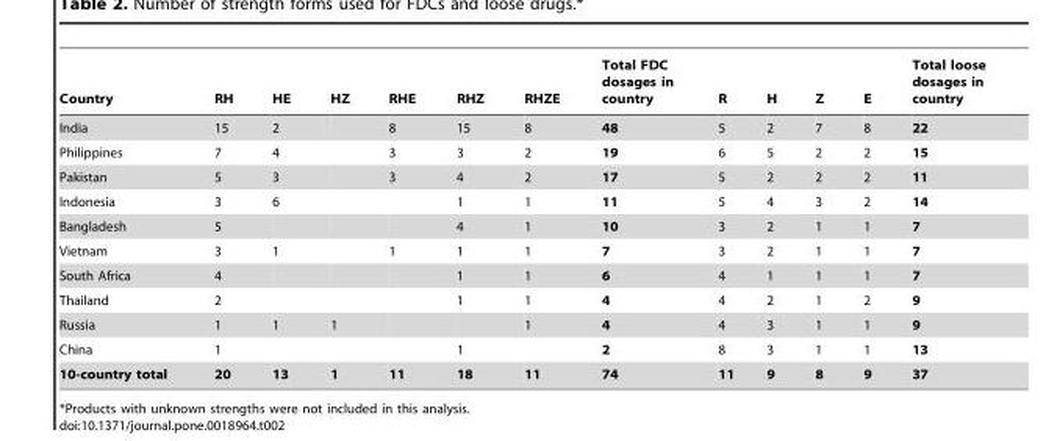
<table><thead><tr><td>Country</td><td>RH</td><td>HE</td><td>HZ</td><td>RHE</td><td>RHZ</td><td>RHZE</td><td>Total FDC dosages in country</td><td>R</td><td>H</td><td>Z</td><td>E</td><td>Total loose dosages in country</td></tr></thead><tbody><tr><td>India</td><td>15</td><td>2</td><td></td><td>8</td><td>15</td><td>8</td><td>48</td><td>5</td><td>2</td><td>7</td><td>8</td><td>22</td></tr><tr><td>Philippines</td><td>7</td><td>4</td><td></td><td>3</td><td>3</td><td>2</td><td>19</td><td>6</td><td>5</td><td>2</td><td>2</td><td>15</td></tr><tr><td>Pakistan</td><td>5</td><td>3</td><td></td><td>3</td><td>4</td><td>2</td><td>17</td><td>5</td><td>2</td><td>2</td><td>2</td><td>11</td></tr><tr><td>Indonesia</td><td>3</td><td>6</td><td></td><td></td><td>1</td><td>1</td><td>11</td><td>5</td><td>4</td><td>3</td><td>2</td><td>14</td></tr><tr><td>Bangladesh</td><td>5</td><td></td><td></td><td></td><td>4</td><td>1</td><td>10</td><td>3</td><td>2</td><td>1</td><td>1</td><td>7</td></tr><tr><td>Vietnam</td><td>3</td><td>1</td><td></td><td>1</td><td>1</td><td>1</td><td>7</td><td>3</td><td>2</td><td>1</td><td>1</td><td>7</td></tr><tr><td>South Africa</td><td>4</td><td></td><td></td><td></td><td>1</td><td>1</td><td>6</td><td>4</td><td>1</td><td>1</td><td>1</td><td>7</td></tr><tr><td>Thailand</td><td>2</td><td></td><td></td><td></td><td>1</td><td>1</td><td>4</td><td>4</td><td>2</td><td>1</td><td>2</td><td>9</td></tr><tr><td>Russia</td><td>1</td><td>1</td><td>1</td><td></td><td></td><td>1</td><td>4</td><td>4</td><td>3</td><td>1</td><td>1</td><td>9</td></tr><tr><td>China</td><td>1</td><td></td><td></td><td></td><td>1</td><td></td><td>2</td><td>8</td><td>3</td><td>1</td><td>1</td><td>13</td></tr><tr><td>10-country total</td><td>20</td><td>13</td><td>1</td><td>11</td><td>18</td><td>11</td><td>74</td><td>11</td><td>9</td><td>8</td><td>9</td><td>37</td></tr></tbody></table>